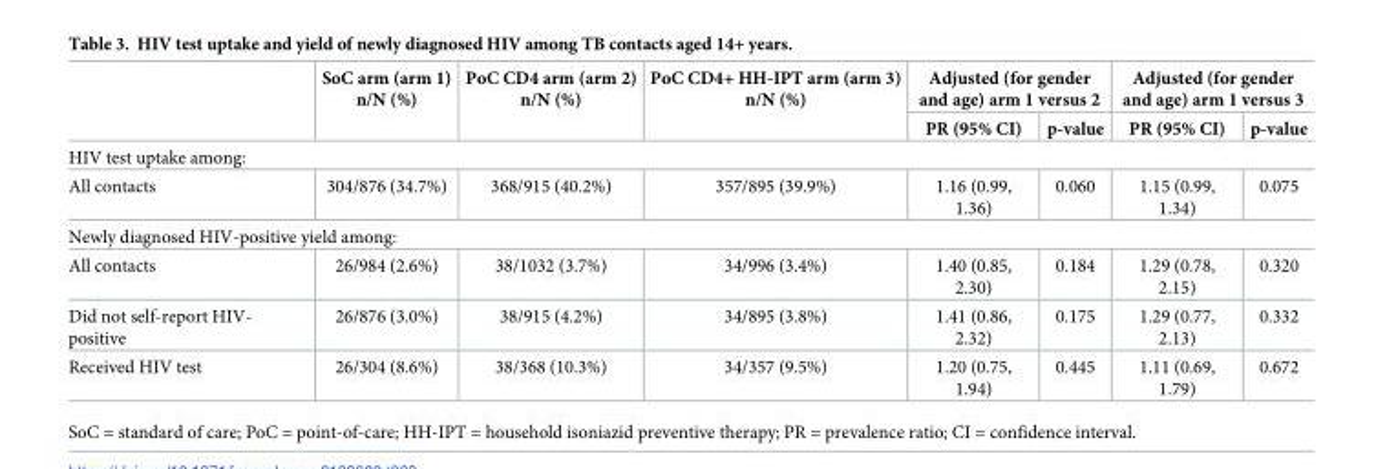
<table><thead><tr><td rowspan="2"></td><td rowspan="2">SoC arm (arm 1) n/N (%)</td><td rowspan="2">PoC CD4 arm (arm 2) n/N (%)</td><td rowspan="2">PoC CD4+ HH-IPT arm (arm 3) n/N (%)</td><td colspan="2">Adjusted (for gender and age) arm 1 versus 2</td><td colspan="2">Adjusted (for gender and age) arm 1 versus 3</td></tr><tr><td>PR (95% CI)</td><td>p-value</td><td>PR (95% CI)</td><td>p-value</td></tr></thead><tbody><tr><td colspan="8">HIV test uptake among:</td></tr><tr><td>All contacts</td><td>304/876 (34.7%)</td><td>368/915 (40.2%)</td><td>357/895 (39.9%)</td><td>1.16 (0.99, 1.36)</td><td>0.060</td><td>1.15 (0.99, 1.34)</td><td>0.075</td></tr><tr><td colspan="8">Newly diagnosed HIV-positive yield among:</td></tr><tr><td>All contacts</td><td>26/984 (2.6%)</td><td>38/1032 (3.7%)</td><td>34/996 (3.4%)</td><td>1.40 (0.85, 2.30)</td><td>0.184</td><td>1.29 (0.78, 2.15)</td><td>0.320</td></tr><tr><td>Did not self-report HIV- positive</td><td>26/876 (3.0%)</td><td>38/915 (4.2%)</td><td>34/895 (3.8%)</td><td>1.41 (0.86, 2.32)</td><td>0.175</td><td>1.29 (0.77, 2.13)</td><td>0.332</td></tr><tr><td>Received HIV test</td><td>26/304 (8.6%)</td><td>38/368 (10.3%)</td><td>34/357 (9.5%)</td><td>1.20 (0.75, 1.94)</td><td>0.445</td><td>1.11 (0.69, 1.79)</td><td>0.672</td></tr></tbody></table>